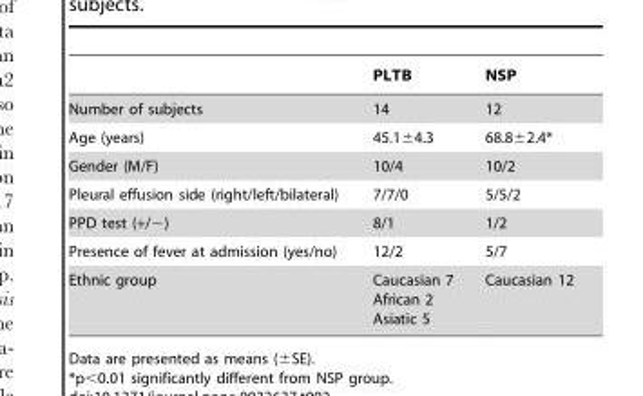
<table><thead><tr><td></td><td>PLTB</td><td>NSP</td></tr></thead><tbody><tr><td>Number of subjects</td><td>14</td><td>12</td></tr><tr><td>Age (years)</td><td>45.1±4.3</td><td>68.8±2.4*</td></tr><tr><td>Gender (M/F)</td><td>10/4</td><td>10/2</td></tr><tr><td>Pleural effusion side (right/left/bilateral)</td><td>7/7/0</td><td>5/5/2</td></tr><tr><td>PPD test (+/−)</td><td>8/1</td><td>1/2</td></tr><tr><td>Presence of fever at admission (yes/no)</td><td>12/2</td><td>5/7</td></tr><tr><td>Ethnic group</td><td>Caucasian 7 African 2 Asiatic 5</td><td>Caucasian 12</td></tr></tbody></table>